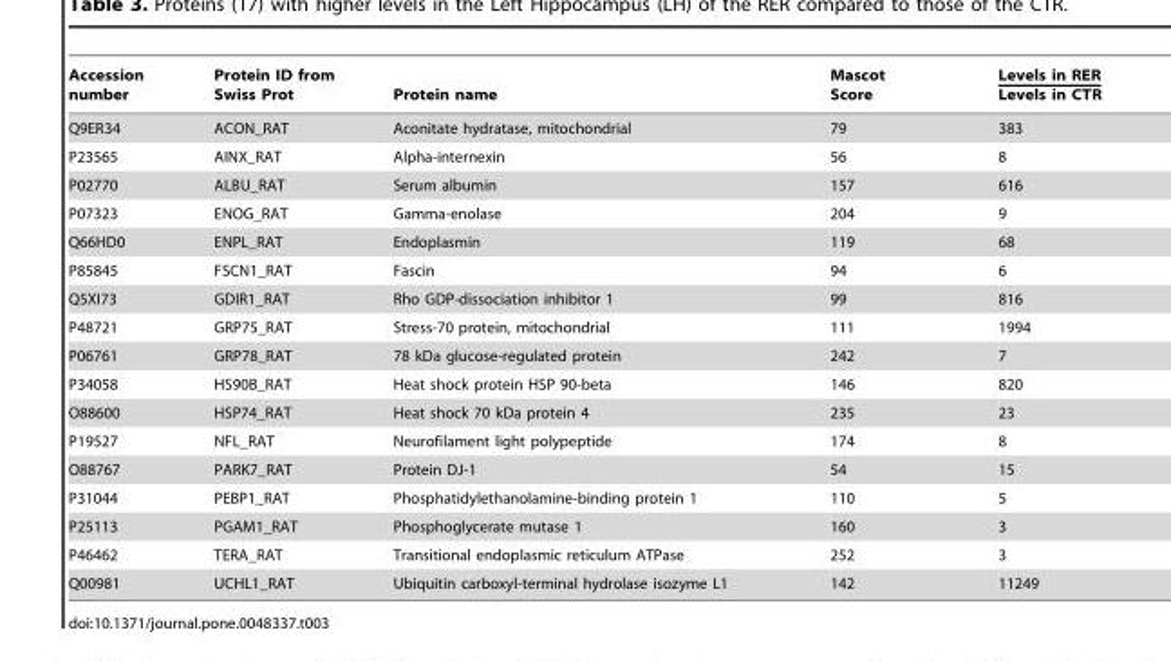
<table><thead><tr><td>Accession number</td><td>Protein ID from Swiss Prot</td><td>Protein name</td><td>Mascot Score</td><td>Levels in RER Levels in CTR</td></tr></thead><tbody><tr><td>Q9ER34</td><td>ACON_RAT</td><td>Aconitate hydratase, mitochondrial</td><td>79</td><td>383</td></tr><tr><td>P23565</td><td>AINX_RAT</td><td>Alpha-internexin</td><td>56</td><td>8</td></tr><tr><td>P02770</td><td>ALBU_RAT</td><td>Serum albumin</td><td>157</td><td>616</td></tr><tr><td>P07323</td><td>ENOG_RAT</td><td>Gamma-enolase</td><td>204</td><td>9</td></tr><tr><td>Q66HD0</td><td>ENPL_RAT</td><td>Endoplasmin</td><td>119</td><td>68</td></tr><tr><td>P85845</td><td>FSCN1_RAT</td><td>Fascin</td><td>94</td><td>6</td></tr><tr><td>Q5XI73</td><td>GDIR1_RAT</td><td>Rho GDP-dissociation inhibitor 1</td><td>99</td><td>816</td></tr><tr><td>P48721</td><td>GRP75_RAT</td><td>Stress-70 protein, mitochondrial</td><td>111</td><td>1994</td></tr><tr><td>P06761</td><td>GRP78_RAT</td><td>78 kDa glucose-regulated protein</td><td>242</td><td>7</td></tr><tr><td>P34058</td><td>HS90B_RAT</td><td>Heat shock protein HSP 90-beta</td><td>146</td><td>820</td></tr><tr><td>O88600</td><td>HSP74_RAT</td><td>Heat shock 70 kDa protein 4</td><td>235</td><td>23</td></tr><tr><td>P19527</td><td>NFL_RAT</td><td>Neurofilament light polypeptide</td><td>174</td><td>8</td></tr><tr><td>O88767</td><td>PARK7_RAT</td><td>Protein DJ-1</td><td>54</td><td>15</td></tr><tr><td>P31044</td><td>PEBP1_RAT</td><td>Phosphatidylethanolamine-binding protein 1</td><td>110</td><td>5</td></tr><tr><td>P25113</td><td>PGAM1_RAT</td><td>Phosphoglycerate mutase 1</td><td>160</td><td>3</td></tr><tr><td>P46462</td><td>TERA_RAT</td><td>Transitional endoplasmic reticulum ATPase</td><td>252</td><td>3</td></tr><tr><td>Q00981</td><td>UCHL1_RAT</td><td>Ubiquitin carboxyl-terminal hydrolase isozyme L1</td><td>142</td><td>11249</td></tr></tbody></table>